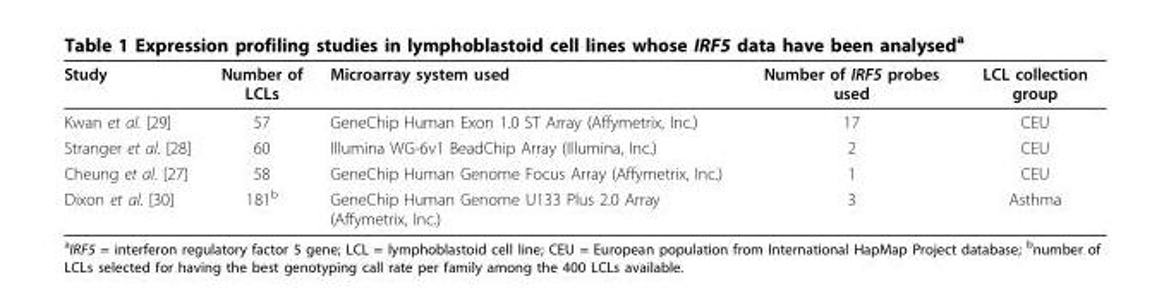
<table><thead><tr><td>Study</td><td>Number of LCLs</td><td>Microarray system used</td><td>Number of IRF5 probes used</td><td>LCL collection group</td></tr></thead><tbody><tr><td>Kwan et al. [29]</td><td>57</td><td>GeneChip Human Exon 1.0 ST Array (Affymetrix, Inc.)</td><td>17</td><td>CEU</td></tr><tr><td>Stranger et al. [28]</td><td>60</td><td>Illumina WG-6v1 BeadChip Array (Illumina, Inc.)</td><td>2</td><td>CEU</td></tr><tr><td>Cheung et al. [27]</td><td>58</td><td>GeneChip Human Genome Focus Array (Affymetrix, Inc.)</td><td>1</td><td>CEU</td></tr><tr><td>Dixon et al. [30]</td><td>181<sup>b</sup></td><td>GeneChip Human Genome U133 Plus 2.0 Array (Affymetrix, Inc.)</td><td>3</td><td>Asthma</td></tr></tbody></table>